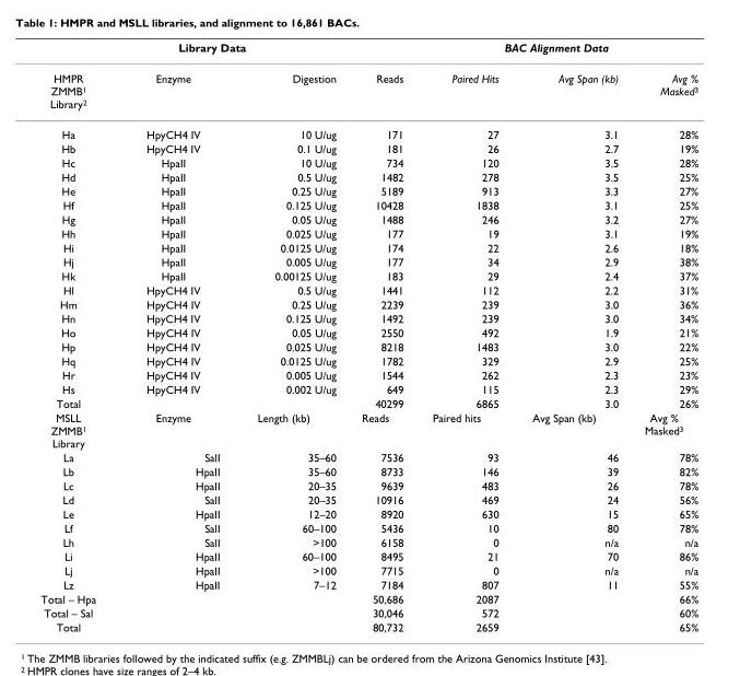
<table><thead><tr><td colspan="4">Library Data</td><td colspan="3">BAC Alignment Data</td></tr><tr><td>HMPR ZMMB<sup>1</sup> Library<sup>2</sup></td><td>Enzyme</td><td>Digestion</td><td>Reads</td><td>Paired Hits</td><td>Avg Span (kb)</td><td>Avg % Masked<sup>3</sup></td></tr></thead><tbody><tr><td>Ha</td><td>HpyCH4 IV</td><td>10 U/ug</td><td>171</td><td>27</td><td>3.1</td><td>28%</td></tr><tr><td>Hb</td><td>HpyCH4 IV</td><td>0.1 U/ug</td><td>181</td><td>26</td><td>2.7</td><td>19%</td></tr><tr><td>Hc</td><td>HpaII</td><td>10 U/ug</td><td>734</td><td>120</td><td>3.5</td><td>28%</td></tr><tr><td>Hd</td><td>HpaII</td><td>0.5 U/ug</td><td>1482</td><td>278</td><td>3.5</td><td>25%</td></tr><tr><td>He</td><td>HpaII</td><td>0.25 U/ug</td><td>5189</td><td>913</td><td>3.3</td><td>27%</td></tr><tr><td>Hf</td><td>HpaII</td><td>0.125 U/ug</td><td>10428</td><td>1838</td><td>3.1</td><td>25%</td></tr><tr><td>Hg</td><td>HpaII</td><td>0.05 U/ug</td><td>1488</td><td>246</td><td>3.2</td><td>27%</td></tr><tr><td>Hh</td><td>HpaII</td><td>0.025 U/ug</td><td>177</td><td>19</td><td>3.1</td><td>19%</td></tr><tr><td>Hi</td><td>HpaII</td><td>0.0125 U/ug</td><td>174</td><td>22</td><td>2.6</td><td>18%</td></tr><tr><td>Hj</td><td>HpaII</td><td>0.005 U/ug</td><td>177</td><td>34</td><td>2.9</td><td>38%</td></tr><tr><td>Hk</td><td>HpaII</td><td>0.00125 U/ug</td><td>183</td><td>29</td><td>2.4</td><td>37%</td></tr><tr><td>Hl</td><td>HpyCH4 IV</td><td>0.5 U/ug</td><td>1441</td><td>112</td><td>2.2</td><td>31%</td></tr><tr><td>Hm</td><td>HpyCH4 IV</td><td>0.25 U/ug</td><td>2239</td><td>239</td><td>3.0</td><td>36%</td></tr><tr><td>Hn</td><td>HpyCH4 IV</td><td>0.125 U/ug</td><td>1492</td><td>239</td><td>3.0</td><td>34%</td></tr><tr><td>Ho</td><td>HpyCH4 IV</td><td>0.05 U/ug</td><td>2550</td><td>492</td><td>1.9</td><td>21%</td></tr><tr><td>Hp</td><td>HpyCH4 IV</td><td>0.025 U/ug</td><td>8218</td><td>1483</td><td>3.0</td><td>22%</td></tr><tr><td>Hq</td><td>HpyCH4 IV</td><td>0.0125 U/ug</td><td>1782</td><td>329</td><td>2.9</td><td>25%</td></tr><tr><td>Hr</td><td>HpyCH4 IV</td><td>0.005 U/ug</td><td>1544</td><td>262</td><td>2.3</td><td>23%</td></tr><tr><td>Hs</td><td>HpyCH4 IV</td><td>0.002 U/ug</td><td>649</td><td>115</td><td>2.3</td><td>29%</td></tr><tr><td>Total</td><td></td><td></td><td>40299</td><td>6865</td><td>3.0</td><td>26%</td></tr><tr><td>MSLL ZMMB<sup>1</sup> Library</td><td>Enzyme</td><td>Length (kb)</td><td>Reads</td><td>Paired hits</td><td>Avg Span (kb)</td><td>Avg % Masked<sup>3</sup></td></tr><tr><td>La</td><td>SalI</td><td>35–60</td><td>7536</td><td>93</td><td>46</td><td>78%</td></tr><tr><td>Lb</td><td>HpaII</td><td>35–60</td><td>8733</td><td>146</td><td>39</td><td>82%</td></tr><tr><td>Lc</td><td>HpaII</td><td>20–35</td><td>9639</td><td>483</td><td>26</td><td>78%</td></tr><tr><td>Ld</td><td>SalI</td><td>20–35</td><td>10916</td><td>469</td><td>24</td><td>56%</td></tr><tr><td>Le</td><td>HpaII</td><td>12–20</td><td>8920</td><td>630</td><td>15</td><td>65%</td></tr><tr><td>Lf</td><td>SalI</td><td>60–100</td><td>5436</td><td>10</td><td>80</td><td>78%</td></tr><tr><td>Lh</td><td>SalI</td><td>&gt;100</td><td>6158</td><td>0</td><td>n/a</td><td>n/a</td></tr><tr><td>Li</td><td>HpaII</td><td>60–100</td><td>8495</td><td>21</td><td>70</td><td>86%</td></tr><tr><td>Lj</td><td>HpaII</td><td>&gt;100</td><td>7715</td><td>0</td><td>n/a</td><td>n/a</td></tr><tr><td>Lz</td><td>HpaII</td><td>7–12</td><td>7184</td><td>807</td><td>11</td><td>55%</td></tr><tr><td>Total – Hpa</td><td></td><td></td><td>50,686</td><td>2087</td><td></td><td>66%</td></tr><tr><td>Total – Sal</td><td></td><td></td><td>30,046</td><td>572</td><td></td><td>60%</td></tr><tr><td>Total</td><td></td><td></td><td>80,732</td><td>2659</td><td></td><td>65%</td></tr></tbody></table>